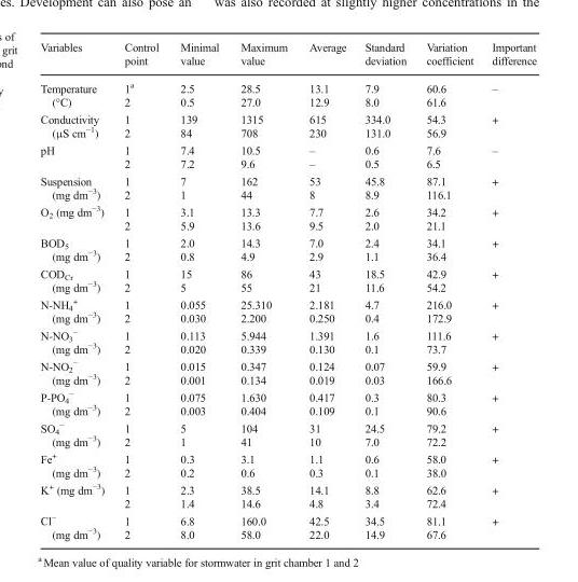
<table><thead><tr><td>Variables</td><td>Control point</td><td>Minimal value</td><td>Maximum value</td><td>Average</td><td>Standard deviation</td><td>Variation coefficient</td><td>Important difference</td></tr></thead><tbody><tr><td rowspan="2">Temperature (°C)</td><td>1<sup>a</sup></td><td>2.5</td><td>28.5</td><td>13.1</td><td>7.9</td><td>60.6</td><td rowspan="2">–</td></tr><tr><td>2</td><td>0.5</td><td>27.0</td><td>12.9</td><td>8.0</td><td>61.6</td></tr><tr><td rowspan="2">Conductivity (μS cm<sup>−1</sup>)</td><td>1</td><td>139</td><td>1315</td><td>615</td><td>334.0</td><td>54.3</td><td rowspan="2">+</td></tr><tr><td>2</td><td>84</td><td>708</td><td>230</td><td>131.0</td><td>56.9</td></tr><tr><td rowspan="2">pH</td><td>1</td><td>7.4</td><td>10.5</td><td>–</td><td>0.6</td><td>7.6</td><td rowspan="2">–</td></tr><tr><td>2</td><td>7.2</td><td>9.6</td><td>–</td><td>0.5</td><td>6.5</td></tr><tr><td rowspan="2">Suspension (mg dm<sup>−3</sup>)</td><td>1</td><td>7</td><td>162</td><td>53</td><td>45.8</td><td>87.1</td><td rowspan="2">+</td></tr><tr><td>2</td><td>1</td><td>44</td><td>8</td><td>8.9</td><td>116.1</td></tr><tr><td rowspan="2">O<sub>2</sub> (mg dm<sup>−3</sup>)</td><td>1</td><td>3.1</td><td>13.3</td><td>7.7</td><td>2.6</td><td>34.2</td><td rowspan="2">+</td></tr><tr><td>2</td><td>5.9</td><td>13.6</td><td>9.5</td><td>2.0</td><td>21.1</td></tr><tr><td rowspan="2">BOD<sub>5</sub> (mg dm<sup>−3</sup>)</td><td>1</td><td>2.0</td><td>14.3</td><td>7.0</td><td>2.4</td><td>34.1</td><td rowspan="2">+</td></tr><tr><td>2</td><td>0.8</td><td>4.9</td><td>2.9</td><td>1.1</td><td>36.4</td></tr><tr><td rowspan="2">COD<sub>Cr</sub> (mg dm<sup>−3</sup>)</td><td>1</td><td>15</td><td>86</td><td>43</td><td>18.5</td><td>42.9</td><td rowspan="2">+</td></tr><tr><td>2</td><td>5</td><td>55</td><td>21</td><td>11.6</td><td>54.2</td></tr><tr><td rowspan="2">N-NH<sub>4</sub> <sup>+</sup> (mg dm<sup>−3</sup>)</td><td>1</td><td>0.055</td><td>25.310</td><td>2.181</td><td>4.7</td><td>216.0</td><td rowspan="2">+</td></tr><tr><td>2</td><td>0.030</td><td>2.200</td><td>0.250</td><td>0.4</td><td>172.9</td></tr><tr><td rowspan="2">N-NO<sub>3</sub> <sup>−</sup> (mg dm<sup>−3</sup>)</td><td>1</td><td>0.113</td><td>5.944</td><td>1.391</td><td>1.6</td><td>111.6</td><td rowspan="2">+</td></tr><tr><td>2</td><td>0.020</td><td>0.339</td><td>0.130</td><td>0.1</td><td>73.7</td></tr><tr><td rowspan="2">N-NO<sub>2</sub> <sup>−</sup> (mg dm<sup>−3</sup>)</td><td>1</td><td>0.015</td><td>0.347</td><td>0.124</td><td>0.07</td><td>59.9</td><td rowspan="2">+</td></tr><tr><td>2</td><td>0.001</td><td>0.134</td><td>0.019</td><td>0.03</td><td>166.6</td></tr><tr><td rowspan="2">P-PO<sub>4</sub> <sup>−</sup> (mg dm<sup>−3</sup>)</td><td>1</td><td>0.075</td><td>1.630</td><td>0.417</td><td>0.3</td><td>80.3</td><td rowspan="2">+</td></tr><tr><td>2</td><td>0.003</td><td>0.404</td><td>0.109</td><td>0.1</td><td>90.6</td></tr><tr><td rowspan="2">SO<sub>4</sub> <sup>−</sup> (mg dm<sup>−3</sup>)</td><td>1</td><td>5</td><td>104</td><td>31</td><td>24.5</td><td>79.2</td><td rowspan="2">+</td></tr><tr><td>2</td><td>1</td><td>41</td><td>10</td><td>7.0</td><td>72.2</td></tr><tr><td rowspan="2">Fe<sup>+</sup> (mg dm<sup>−3</sup>)</td><td>1</td><td>0.3</td><td>3.1</td><td>1.1</td><td>0.6</td><td>58.0</td><td rowspan="2">+</td></tr><tr><td>2</td><td>0.2</td><td>0.6</td><td>0.3</td><td>0.1</td><td>38.0</td></tr><tr><td rowspan="2">K<sup>+</sup> (mg dm<sup>−3</sup>)</td><td>1</td><td>2.3</td><td>38.5</td><td>14.1</td><td>8.8</td><td>62.6</td><td rowspan="2">+</td></tr><tr><td>2</td><td>1.4</td><td>14.6</td><td>4.8</td><td>3.4</td><td>72.4</td></tr><tr><td rowspan="2">Cl<sup>−</sup> (mg dm<sup>−3</sup>)</td><td>1</td><td>6.8</td><td>160.0</td><td>42.5</td><td>34.5</td><td>81.1</td><td rowspan="2">+</td></tr><tr><td>2</td><td>8.0</td><td>58.0</td><td>22.0</td><td>14.9</td><td>67.6</td></tr></tbody></table>